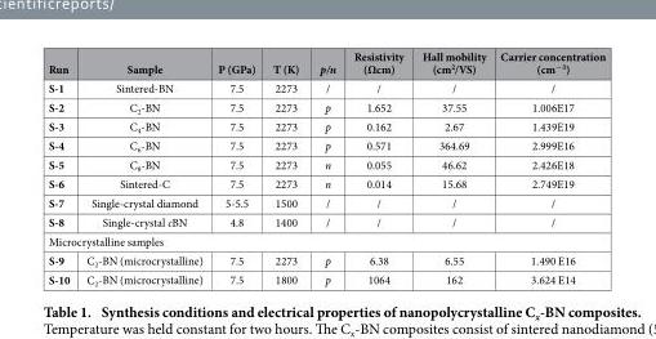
<table><thead><tr><td>Run</td><td>Sample</td><td>P (GPa)</td><td>T (K)</td><td>p/n</td><td>Resistivity (Ωcm)</td><td>Hall mobility (cm<sup>2</sup>/VS)</td><td>Carrier concentration (cm<sup>−3</sup>)</td></tr></thead><tbody><tr><td>S-1</td><td>Sintered-BN</td><td>7.5</td><td>2273</td><td>/</td><td>/</td><td>/</td><td>/</td></tr><tr><td>S-2</td><td>C<sub>2</sub>-BN</td><td>7.5</td><td>2273</td><td>p</td><td>1.652</td><td>37.55</td><td>1.006E17</td></tr><tr><td>S-3</td><td>C<sub>4</sub>-BN</td><td>7.5</td><td>2273</td><td>p</td><td>0.162</td><td>2.67</td><td>1.439E19</td></tr><tr><td>S-4</td><td>C<sub>6</sub>-BN</td><td>7.5</td><td>2273</td><td>p</td><td>0.571</td><td>364.69</td><td>2.999E16</td></tr><tr><td>S-5</td><td>C<sub>8</sub>-BN</td><td>7.5</td><td>2273</td><td>n</td><td>0.055</td><td>46.62</td><td>2.426E18</td></tr><tr><td>S-6</td><td>Sintered-C</td><td>7.5</td><td>2273</td><td>n</td><td>0.014</td><td>15.68</td><td>2.749E19</td></tr><tr><td>S-7</td><td>Single-crystal diamond</td><td>5-5.5</td><td>1500</td><td>/</td><td>/</td><td>/</td><td>/</td></tr><tr><td>S-8</td><td>Single-crystal cBN</td><td>4.8</td><td>1400</td><td>/</td><td>/</td><td>/</td><td>/</td></tr><tr><td colspan="8">Microcrystalline samples</td></tr><tr><td>S-9</td><td>C<sub>2</sub>-BN (microcrystalline)</td><td>7.5</td><td>2273</td><td>p</td><td>6.38</td><td>6.55</td><td>1.490 E16</td></tr><tr><td>S-10</td><td>C<sub>2</sub>-BN (microcrystalline)</td><td>7.5</td><td>1800</td><td>p</td><td>1064</td><td>162</td><td>3.624 E14</td></tr></tbody></table>